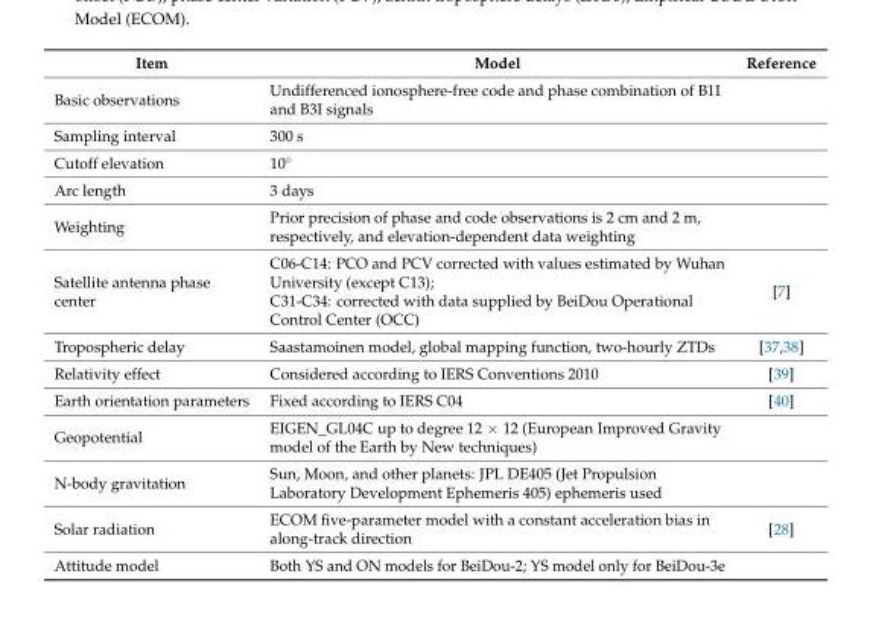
<table><thead><tr><td>Item</td><td>Model</td><td>Reference</td></tr></thead><tbody><tr><td>Basic observations</td><td>Undifferenced ionosphere-free code and phase combination of B1I and B3I signals</td><td></td></tr><tr><td>Sampling interval</td><td>300 s</td><td></td></tr><tr><td>Cutoff elevation</td><td>10◦</td><td></td></tr><tr><td>Arc length</td><td>3 days</td><td></td></tr><tr><td>Weighting</td><td>Prior precision of phase and code observations is 2 cm and 2 m, respectively, and elevation-dependent data weighting</td><td></td></tr><tr><td>Satellite antenna phase center</td><td>C06-C14: PCO and PCV corrected with values estimated by Wuhan University (except C13); C31-C34: corrected with data supplied by BeiDou Operational Control Center (OCC)</td><td>[7]</td></tr><tr><td>Tropospheric delay</td><td>Saastamoinen model, global mapping function, two-hourly ZTDs</td><td>[37,38]</td></tr><tr><td>Relativity effect</td><td>Considered according to IERS Conventions 2010</td><td>[39]</td></tr><tr><td>Earth orientation parameters</td><td>Fixed according to IERS C04</td><td>[40]</td></tr><tr><td>Geopotential</td><td>EIGEN_GL04C up to degree 12 × 12 (European Improved Gravity model of the Earth by New techniques)</td><td></td></tr><tr><td>N-body gravitation</td><td>Sun, Moon, and other planets: JPL DE405 (Jet Propulsion Laboratory Development Ephemeris 405) ephemeris used</td><td></td></tr><tr><td>Solar radiation</td><td>ECOM five-parameter model with a constant acceleration bias in along-track direction</td><td>[28]</td></tr><tr><td>Attitude model</td><td>Both YS and ON models for BeiDou-2; YS model only for BeiDou-3e</td><td></td></tr></tbody></table>